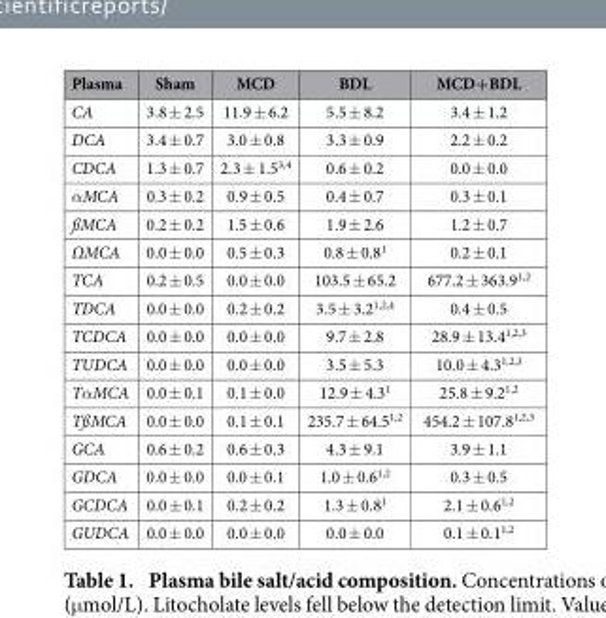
<table><thead><tr><td>Plasma</td><td>Sham</td><td>MCD</td><td>BDL</td><td>MCD+BDL</td></tr></thead><tbody><tr><td>CA</td><td>3.8 ± 2.5</td><td>11.9 ± 6.2</td><td>5.5 ± 8.2</td><td>3.4 ± 1.2</td></tr><tr><td>DCA</td><td>3.4 ± 0.7</td><td>3.0 ± 0.8</td><td>3.3 ± 0.9</td><td>2.2 ± 0.2</td></tr><tr><td>CDCA</td><td>1.3 ± 0.7</td><td>2.3 ± 1.5<sup>3,4</sup></td><td>0.6 ± 0.2</td><td>0.0 ± 0.0</td></tr><tr><td>αMCA</td><td>0.3 ± 0.2</td><td>0.9 ± 0.5</td><td>0.4 ± 0.7</td><td>0.3 ± 0.1</td></tr><tr><td>ßMCA</td><td>0.2 ± 0.2</td><td>1.5 ± 0.6</td><td>1.9 ± 2.6</td><td>1.2 ± 0.7</td></tr><tr><td>ΩMCA</td><td>0.0 ± 0.0</td><td>0.5 ± 0.3</td><td>0.8 ± 0.8<sup>1</sup></td><td>0.2 ± 0.1</td></tr><tr><td>TCA</td><td>0.2 ± 0.5</td><td>0.0 ± 0.0</td><td>103.5 ± 65.2</td><td>677.2 ± 363.9<sup>1,2</sup></td></tr><tr><td>TDCA</td><td>0.0 ± 0.0</td><td>0.2 ± 0.2</td><td>3.5 ± 3.2<sup>1,2,4</sup></td><td>0.4 ± 0.5</td></tr><tr><td>TCDCA</td><td>0.0 ± 0.0</td><td>0.0 ± 0.0</td><td>9.7 ± 2.8</td><td>28.9 ± 13.4<sup>1,2,3</sup></td></tr><tr><td>TUDCA</td><td>0.0 ± 0.0</td><td>0.0 ± 0.0</td><td>3.5 ± 5.3</td><td>10.0 ± 4.3<sup>1,2,3</sup></td></tr><tr><td>TαMCA</td><td>0.0 ± 0.1</td><td>0.1 ± 0.0</td><td>12.9 ± 4.3<sup>1</sup></td><td>25.8 ± 9.2<sup>1,2</sup></td></tr><tr><td>TßMCA</td><td>0.0 ± 0.0</td><td>0.1 ± 0.1</td><td>235.7 ± 64.5<sup>1,2</sup></td><td>454.2 ± 107.8<sup>1,2,3</sup></td></tr><tr><td>GCA</td><td>0.6 ± 0.2</td><td>0.6 ± 0.3</td><td>4.3 ± 9.1</td><td>3.9 ± 1.1</td></tr><tr><td>GDCA</td><td>0.0 ± 0.0</td><td>0.0 ± 0.1</td><td>1.0 ± 0.6<sup>1,2</sup></td><td>0.3 ± 0.5</td></tr><tr><td>GCDCA</td><td>0.0 ± 0.1</td><td>0.2 ± 0.2</td><td>1.3 ± 0.8<sup>1</sup></td><td>2.1 ± 0.6<sup>1,2</sup></td></tr><tr><td>GUDCA</td><td>0.0 ± 0.0</td><td>0.0 ± 0.0</td><td>0.0 ± 0.0</td><td>0.1 ± 0.1<sup>1,2</sup></td></tr></tbody></table>